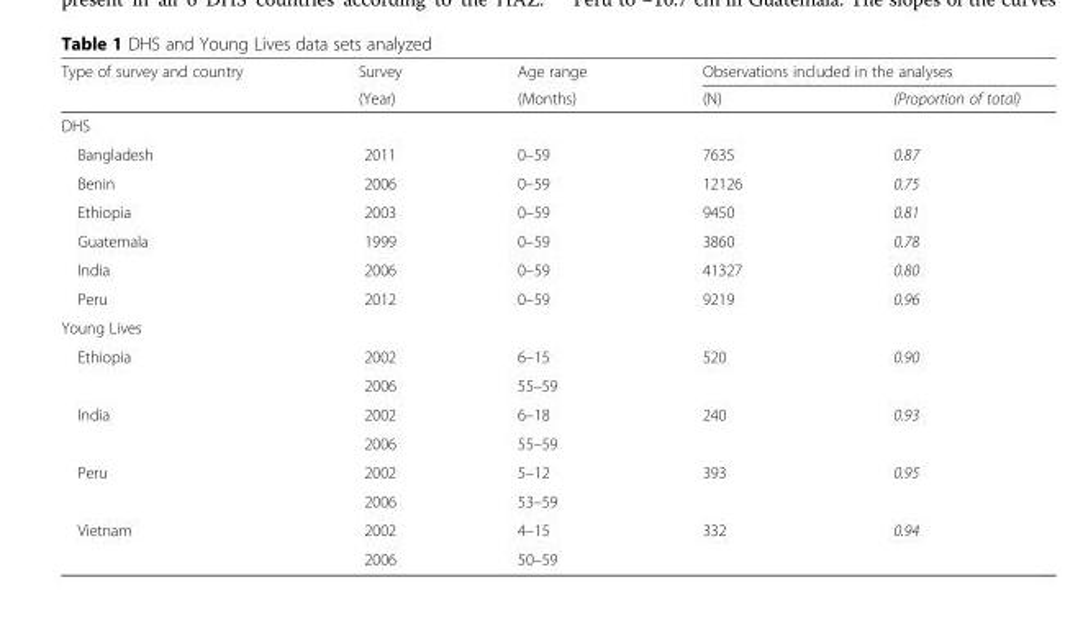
<table><thead><tr><td rowspan="2">Type of survey and country</td><td rowspan="2">Survey (Year)</td><td rowspan="2">Age range (Months)</td><td colspan="2">Observations included in the analyses</td></tr><tr><td>(N)</td><td>(Proportion of total)</td></tr></thead><tbody><tr><td colspan="5">DHS</td></tr><tr><td>Bangladesh</td><td>2011</td><td>0–59</td><td>7635</td><td>0.87</td></tr><tr><td>Benin</td><td>2006</td><td>0–59</td><td>12126</td><td>0.75</td></tr><tr><td>Ethiopia</td><td>2003</td><td>0–59</td><td>9450</td><td>0.81</td></tr><tr><td>Guatemala</td><td>1999</td><td>0–59</td><td>3860</td><td>0.78</td></tr><tr><td>India</td><td>2006</td><td>0–59</td><td>41327</td><td>0.80</td></tr><tr><td>Peru</td><td>2012</td><td>0–59</td><td>9219</td><td>0.96</td></tr><tr><td colspan="5">Young Lives</td></tr><tr><td rowspan="2">Ethiopia</td><td>2002</td><td>6–15</td><td rowspan="2">520</td><td rowspan="2">0.90</td></tr><tr><td>2006</td><td>55–59</td></tr><tr><td rowspan="2">India</td><td>2002</td><td>6–18</td><td rowspan="2">240</td><td rowspan="2">0.93</td></tr><tr><td>2006</td><td>55–59</td></tr><tr><td rowspan="2">Peru</td><td>2002</td><td>5–12</td><td rowspan="2">393</td><td rowspan="2">0.95</td></tr><tr><td>2006</td><td>53–59</td></tr><tr><td rowspan="2">Vietnam</td><td>2002</td><td>4–15</td><td rowspan="2">332</td><td rowspan="2">0.94</td></tr><tr><td>2006</td><td>50–59</td></tr></tbody></table>